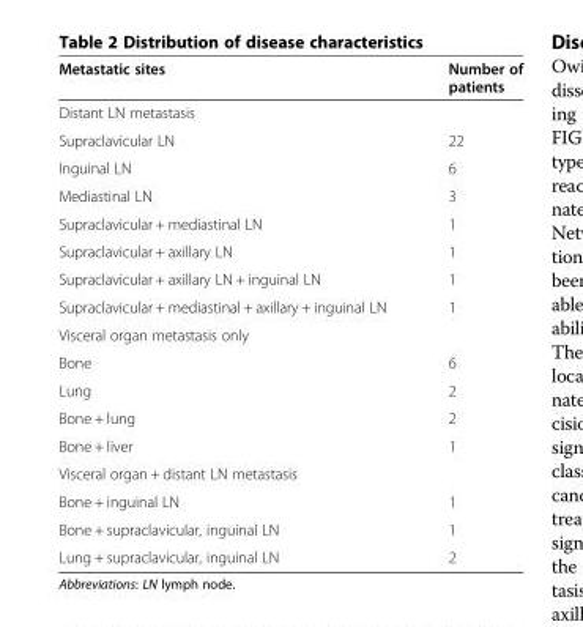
<table><thead><tr><td>Metastatic sites</td><td>Number of patients</td></tr></thead><tbody><tr><td colspan="2">Distant LN metastasis</td></tr><tr><td>Supraclavicular LN</td><td>22</td></tr><tr><td>Inguinal LN</td><td>6</td></tr><tr><td>Mediastinal LN</td><td>3</td></tr><tr><td>Supraclavicular + mediastinal LN</td><td>1</td></tr><tr><td>Supraclavicular + axillary LN</td><td>1</td></tr><tr><td>Supraclavicular + axillary LN + inguinal LN</td><td>1</td></tr><tr><td>Supraclavicular + mediastinal + axillary + inguinal LN</td><td>1</td></tr><tr><td colspan="2">Visceral organ metastasis only</td></tr><tr><td>Bone</td><td>6</td></tr><tr><td>Lung</td><td>2</td></tr><tr><td>Bone + lung</td><td>2</td></tr><tr><td>Bone + liver</td><td>1</td></tr><tr><td colspan="2">Visceral organ + distant LN metastasis</td></tr><tr><td>Bone + inguinal LN</td><td>1</td></tr><tr><td>Bone + supraclavicular, inguinal LN</td><td>1</td></tr><tr><td>Lung + supraclavicular, inguinal LN</td><td>2</td></tr></tbody></table>